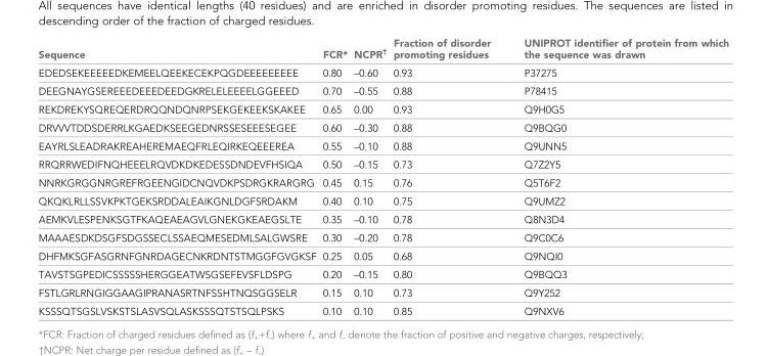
<table><thead><tr><td>Sequence</td><td>FCR*</td><td>NCPR<sup>†</sup></td><td>Fraction of disorder promoting residues</td><td>UNIPROT identifier of protein from which the sequence was drawn</td></tr></thead><tbody><tr><td>EDEDSEKEEEEEDKEMEELQEEKECEKPQGDEEEEEEEEE</td><td>0.80</td><td>–0.60</td><td>0.93</td><td>P37275</td></tr><tr><td>DEEGNAYGSEREEEDEEEDEEDGKRELELEEEELGGEEED</td><td>0.70</td><td>–0.55</td><td>0.88</td><td>P78415</td></tr><tr><td>REKDREKYSQREQERDRQQNDQNRPSEKGEKEEKSKAKEE</td><td>0.65</td><td>0.00</td><td>0.93</td><td>Q9H0G5</td></tr><tr><td>DRVVVTDDSDERRLKGAEDKSEEGEDNRSSESEEESEGEE</td><td>0.60</td><td>–0.30</td><td>0.88</td><td>Q9BQG0</td></tr><tr><td>EAYRLSLEADRAKREAHEREMAEQFRLEQIRKEQEEEREA</td><td>0.55</td><td>–0.10</td><td>0.88</td><td>Q9UNN5</td></tr><tr><td>RRQRRWEDIFNQHEEELRQVDKDKEDESSDNDEVFHSIQA</td><td>0.50</td><td>–0.15</td><td>0.73</td><td>Q7Z2Y5</td></tr><tr><td>NNRKGRGGNRGREFRGEENGIDCNQVDKPSDRGKRARGRG</td><td>0.45</td><td>0.15</td><td>0.76</td><td>Q5T6F2</td></tr><tr><td>QKQKLRLLSSVKPKTGEKSRDDALEAIKGNLDGFSRDAKM</td><td>0.40</td><td>0.10</td><td>0.75</td><td>Q9UMZ2</td></tr><tr><td>AEMKVLESPENKSGTFKAQEAEAGVLGNEKGKEAEGSLTE</td><td>0.35</td><td>–0.10</td><td>0.78</td><td>Q8N3D4</td></tr><tr><td>MAAAESDKDSGFSDGSSECLSSAEQMESEDMLSALGWSRE</td><td>0.30</td><td>–0.20</td><td>0.78</td><td>Q9C0C6</td></tr><tr><td>DHFMKSGFASGRNFGNRDAGECNKRDNTSTMGGFGVGKSF</td><td>0.25</td><td>0.05</td><td>0.68</td><td>Q9NQI0</td></tr><tr><td>TAVSTSGPEDICSSSSSHERGGEATWSGSEFEVSFLDSPG</td><td>0.20</td><td>–0.15</td><td>0.80</td><td>Q9BQQ3</td></tr><tr><td>FSTLGRLRNGIGGAAGIPRANASRTNFSSHTNQSGGSELR</td><td>0.15</td><td>0.10</td><td>0.73</td><td>Q9Y252</td></tr><tr><td>KSSSQTSGSLVSKSTSLASVSQLASKSSSQTSTSQLPSKS</td><td>0.10</td><td>0.10</td><td>0.85</td><td>Q9NXV6</td></tr></tbody></table>